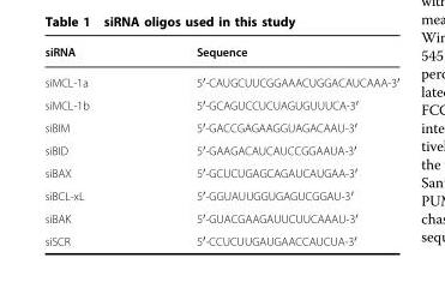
<table><thead><tr><td>siRNA</td><td>Sequence</td></tr></thead><tbody><tr><td>siMCL-1a</td><td>5′-CAUGCUUCGGAAACUGGACAUCAAA-3′</td></tr><tr><td>siMCL-1b</td><td>5′-GCAGUCCUCUAGUGUUUCA-3′</td></tr><tr><td>siBIM</td><td>5′-GACCGAGAAGGUAGACAAU-3′</td></tr><tr><td>siBID</td><td>5′-GAAGACAUCAUCCGGAAUA-3′</td></tr><tr><td>siBAX</td><td>5′-GCUCUGAGCAGAUCAUGAA-3′</td></tr><tr><td>siBCL-xL</td><td>5′-GGUAUUGGUGAGUCGGAU-3′</td></tr><tr><td>siBAK</td><td>5′-GUACGAAGAUUCUUCAAAU-3′</td></tr><tr><td>siSCR</td><td>5′-CCUCUUGAUGAACCAUCUA-3′</td></tr></tbody></table>